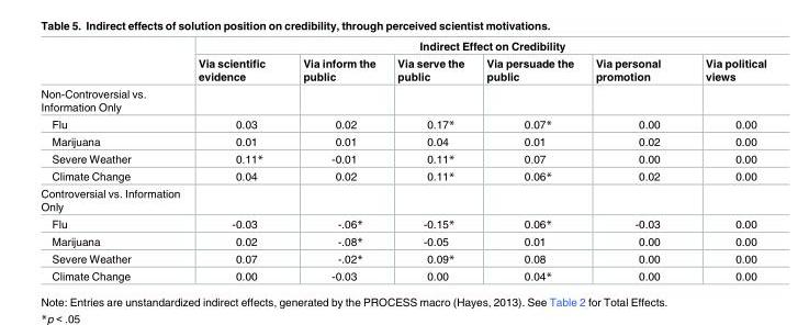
<table><thead><tr><td rowspan="2"></td><td colspan="6">Indirect Effect on Credibility</td></tr><tr><td>Via scientific evidence</td><td>Via inform the public</td><td>Via serve the public</td><td>Via persuade the public</td><td>Via personal promotion</td><td>Via political views</td></tr></thead><tbody><tr><td colspan="7">Non-Controversial vs. Information Only</td></tr><tr><td>Flu</td><td>0.03</td><td>0.02</td><td>0.17*</td><td>0.07*</td><td>0.00</td><td>0.00</td></tr><tr><td>Marijuana</td><td>0.01</td><td>0.01</td><td>0.04</td><td>0.01</td><td>0.02</td><td>0.00</td></tr><tr><td>Severe Weather</td><td>0.11*</td><td>-0.01</td><td>0.11*</td><td>0.07</td><td>0.00</td><td>0.00</td></tr><tr><td>Climate Change</td><td>0.04</td><td>0.02</td><td>0.11*</td><td>0.06*</td><td>0.02</td><td>0.00</td></tr><tr><td colspan="7">Controversial vs. Information Only</td></tr><tr><td>Flu</td><td>-0.03</td><td>-.06*</td><td>-0.15*</td><td>0.06*</td><td>-0.03</td><td>0.00</td></tr><tr><td>Marijuana</td><td>0.02</td><td>-.08*</td><td>-0.05</td><td>0.01</td><td>0.00</td><td>0.00</td></tr><tr><td>Severe Weather</td><td>0.07</td><td>-.02*</td><td>0.09*</td><td>0.08</td><td>0.00</td><td>0.00</td></tr><tr><td>Climate Change</td><td>0.00</td><td>-0.03</td><td>0.00</td><td>0.04*</td><td>0.00</td><td>0.00</td></tr></tbody></table>